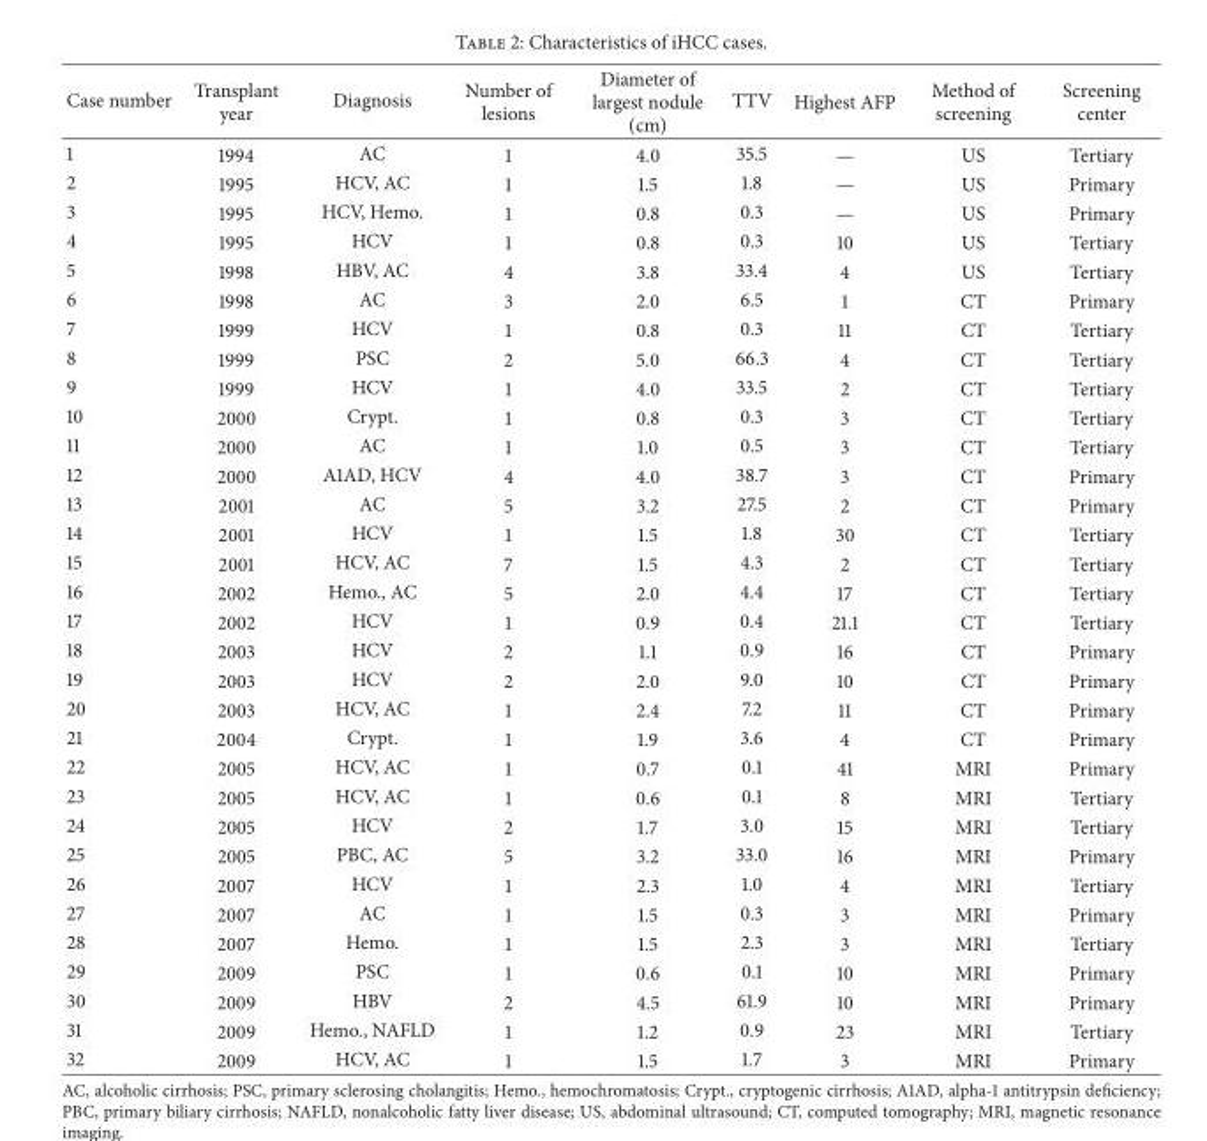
<table><thead><tr><td>Case number</td><td>Transplant year</td><td>Diagnosis</td><td>Number of lesions</td><td>Diameter of largest nodule (cm)</td><td>TTV</td><td>Highest AFP</td><td>Method of screening</td><td>Screening center</td></tr></thead><tbody><tr><td>1</td><td>1994</td><td>AC</td><td>1</td><td>4.0</td><td>35.5</td><td>—</td><td>US</td><td>Tertiary</td></tr><tr><td>2</td><td>1995</td><td>HCV, AC</td><td>1</td><td>1.5</td><td>1.8</td><td>—</td><td>US</td><td>Primary</td></tr><tr><td>3</td><td>1995</td><td>HCV, Hemo.</td><td>1</td><td>0.8</td><td>0.3</td><td>—</td><td>US</td><td>Primary</td></tr><tr><td>4</td><td>1995</td><td>HCV</td><td>1</td><td>0.8</td><td>0.3</td><td>10</td><td>US</td><td>Tertiary</td></tr><tr><td>5</td><td>1998</td><td>HBV, AC</td><td>4</td><td>3.8</td><td>33.4</td><td>4</td><td>US</td><td>Tertiary</td></tr><tr><td>6</td><td>1998</td><td>AC</td><td>3</td><td>2.0</td><td>6.5</td><td>1</td><td>CT</td><td>Primary</td></tr><tr><td>7</td><td>1999</td><td>HCV</td><td>1</td><td>0.8</td><td>0.3</td><td>11</td><td>CT</td><td>Tertiary</td></tr><tr><td>8</td><td>1999</td><td>PSC</td><td>2</td><td>5.0</td><td>66.3</td><td>4</td><td>CT</td><td>Tertiary</td></tr><tr><td>9</td><td>1999</td><td>HCV</td><td>1</td><td>4.0</td><td>33.5</td><td>2</td><td>CT</td><td>Tertiary</td></tr><tr><td>10</td><td>2000</td><td>Crypt.</td><td>1</td><td>0.8</td><td>0.3</td><td>3</td><td>CT</td><td>Tertiary</td></tr><tr><td>11</td><td>2000</td><td>AC</td><td>1</td><td>1.0</td><td>0.5</td><td>3</td><td>CT</td><td>Tertiary</td></tr><tr><td>12</td><td>2000</td><td>A1AD, HCV</td><td>4</td><td>4.0</td><td>38.7</td><td>3</td><td>CT</td><td>Primary</td></tr><tr><td>13</td><td>2001</td><td>AC</td><td>5</td><td>3.2</td><td>27.5</td><td>2</td><td>CT</td><td>Primary</td></tr><tr><td>14</td><td>2001</td><td>HCV</td><td>1</td><td>1.5</td><td>1.8</td><td>30</td><td>CT</td><td>Tertiary</td></tr><tr><td>15</td><td>2001</td><td>HCV, AC</td><td>7</td><td>1.5</td><td>4.3</td><td>2</td><td>CT</td><td>Tertiary</td></tr><tr><td>16</td><td>2002</td><td>Hemo., AC</td><td>5</td><td>2.0</td><td>4.4</td><td>17</td><td>CT</td><td>Tertiary</td></tr><tr><td>17</td><td>2002</td><td>HCV</td><td>1</td><td>0.9</td><td>0.4</td><td>21.1</td><td>CT</td><td>Tertiary</td></tr><tr><td>18</td><td>2003</td><td>HCV</td><td>2</td><td>1.1</td><td>0.9</td><td>16</td><td>CT</td><td>Primary</td></tr><tr><td>19</td><td>2003</td><td>HCV</td><td>2</td><td>2.0</td><td>9.0</td><td>10</td><td>CT</td><td>Primary</td></tr><tr><td>20</td><td>2003</td><td>HCV, AC</td><td>1</td><td>2.4</td><td>7.2</td><td>11</td><td>CT</td><td>Primary</td></tr><tr><td>21</td><td>2004</td><td>Crypt.</td><td>1</td><td>1.9</td><td>3.6</td><td>4</td><td>CT</td><td>Primary</td></tr><tr><td>22</td><td>2005</td><td>HCV, AC</td><td>1</td><td>0.7</td><td>0.1</td><td>41</td><td>MRI</td><td>Primary</td></tr><tr><td>23</td><td>2005</td><td>HCV, AC</td><td>1</td><td>0.6</td><td>0.1</td><td>8</td><td>MRI</td><td>Tertiary</td></tr><tr><td>24</td><td>2005</td><td>HCV</td><td>2</td><td>1.7</td><td>3.0</td><td>15</td><td>MRI</td><td>Tertiary</td></tr><tr><td>25</td><td>2005</td><td>PBC, AC</td><td>5</td><td>3.2</td><td>33.0</td><td>16</td><td>MRI</td><td>Primary</td></tr><tr><td>26</td><td>2007</td><td>HCV</td><td>1</td><td>2.3</td><td>1.0</td><td>4</td><td>MRI</td><td>Tertiary</td></tr><tr><td>27</td><td>2007</td><td>AC</td><td>1</td><td>1.5</td><td>0.3</td><td>3</td><td>MRI</td><td>Primary</td></tr><tr><td>28</td><td>2007</td><td>Hemo.</td><td>1</td><td>1.5</td><td>2.3</td><td>3</td><td>MRI</td><td>Tertiary</td></tr><tr><td>29</td><td>2009</td><td>PSC</td><td>1</td><td>0.6</td><td>0.1</td><td>10</td><td>MRI</td><td>Primary</td></tr><tr><td>30</td><td>2009</td><td>HBV</td><td>2</td><td>4.5</td><td>61.9</td><td>10</td><td>MRI</td><td>Primary</td></tr><tr><td>31</td><td>2009</td><td>Hemo., NAFLD</td><td>1</td><td>1.2</td><td>0.9</td><td>23</td><td>MRI</td><td>Tertiary</td></tr><tr><td>32</td><td>2009</td><td>HCV, AC</td><td>1</td><td>1.5</td><td>1.7</td><td>3</td><td>MRI</td><td>Primary</td></tr></tbody></table>